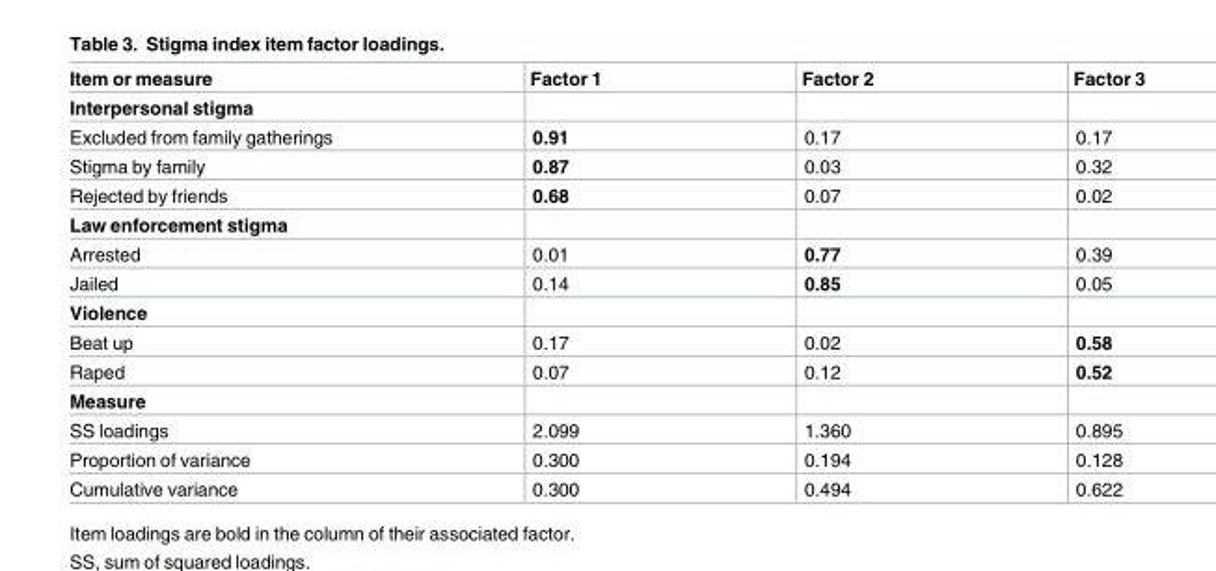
<table><thead><tr><td>Item or measure</td><td>Factor 1</td><td>Factor 2</td><td>Factor 3</td></tr></thead><tbody><tr><td colspan="4">Interpersonal stigma</td></tr><tr><td>Excluded from family gatherings</td><td>0.91</td><td>0.17</td><td>0.17</td></tr><tr><td>Stigma by family</td><td>0.87</td><td>0.03</td><td>0.32</td></tr><tr><td>Rejected by friends</td><td>0.68</td><td>0.07</td><td>0.02</td></tr><tr><td colspan="4">Law enforcement stigma</td></tr><tr><td>Arrested</td><td>0.01</td><td>0.77</td><td>0.39</td></tr><tr><td>Jailed</td><td>0.14</td><td>0.85</td><td>0.05</td></tr><tr><td colspan="4">Violence</td></tr><tr><td>Beat up</td><td>0.17</td><td>0.02</td><td>0.58</td></tr><tr><td>Raped</td><td>0.07</td><td>0.12</td><td>0.52</td></tr><tr><td colspan="4">Measure</td></tr><tr><td>SS loadings</td><td>2.099</td><td>1.360</td><td>0.895</td></tr><tr><td>Proportion of variance</td><td>0.300</td><td>0.194</td><td>0.128</td></tr><tr><td>Cumulative variance</td><td>0.300</td><td>0.494</td><td>0.622</td></tr></tbody></table>